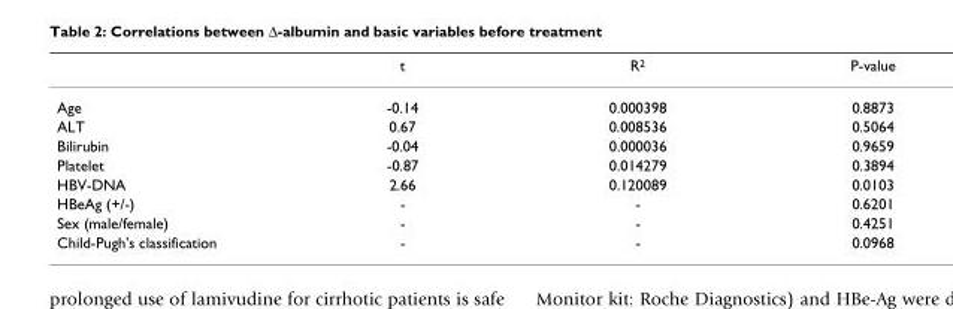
<table><thead><tr><td></td><td>t</td><td>R<sup>2</sup></td><td>P-value</td></tr></thead><tbody><tr><td>Age</td><td>-0.14</td><td>0.000398</td><td>0.8873</td></tr><tr><td>ALT</td><td>0.67</td><td>0.008536</td><td>0.5064</td></tr><tr><td>Bilirubin</td><td>-0.04</td><td>0.000036</td><td>0.9659</td></tr><tr><td>Platelet</td><td>-0.87</td><td>0.014279</td><td>0.3894</td></tr><tr><td>HBV-DNA</td><td>2.66</td><td>0.120089</td><td>0.0103</td></tr><tr><td>HBeAg (+/-)</td><td>-</td><td>-</td><td>0.6201</td></tr><tr><td>Sex (male/female)</td><td>-</td><td>-</td><td>0.4251</td></tr><tr><td>Child-Pugh&#x27;s classification</td><td>-</td><td>-</td><td>0.0968</td></tr></tbody></table>